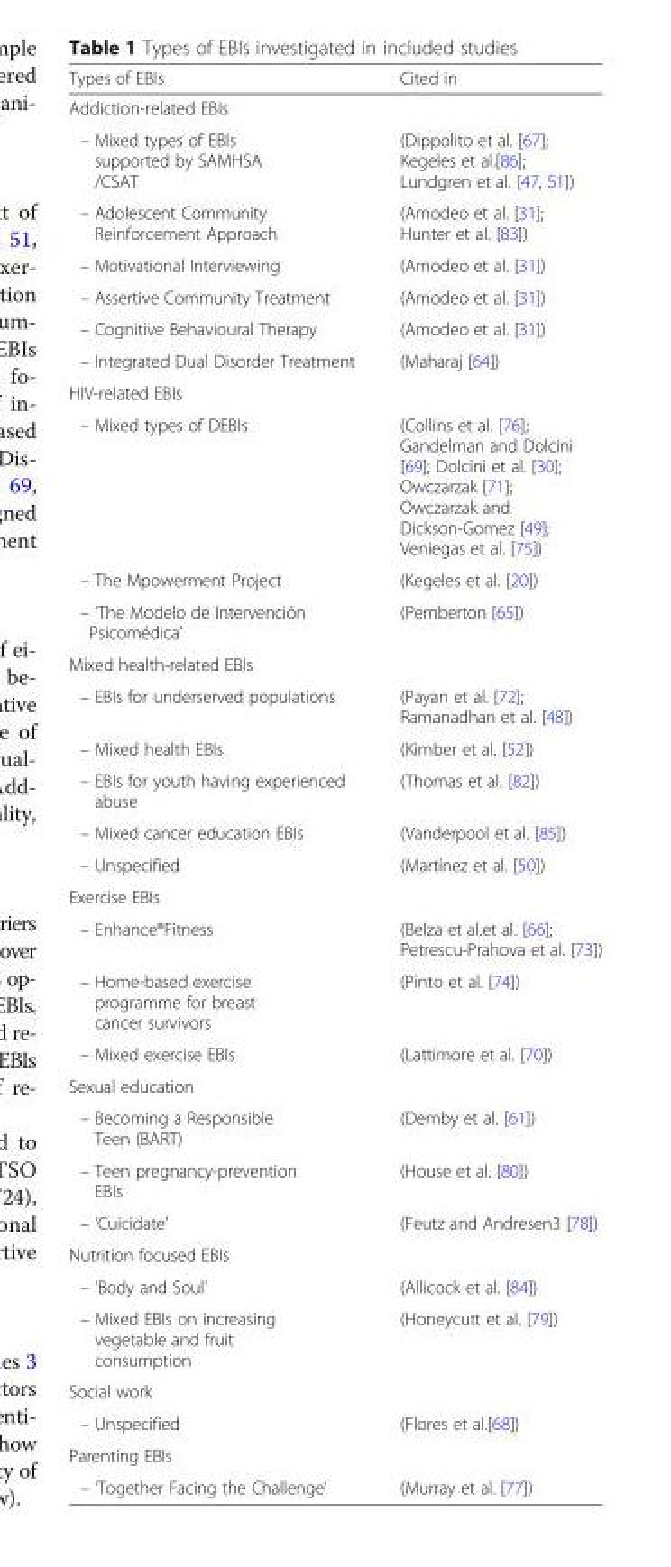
<table><thead><tr><td>Types of EBIs</td><td>Cited in</td></tr></thead><tbody><tr><td colspan="2">Addiction-related EBIs</td></tr><tr><td>– Mixed types of EBIs supported by SAMHSA /CSAT</td><td>(Dippolito et al. [67]; Kegeles et al.[86]; Lundgren et al. [47, 51])</td></tr><tr><td>– Adolescent Community Reinforcement Approach</td><td>(Amodeo et al. [31]; Hunter et al. [83])</td></tr><tr><td>– Motivational Interviewing</td><td>(Amodeo et al. [31])</td></tr><tr><td>– Assertive Community Treatment</td><td>(Amodeo et al. [31])</td></tr><tr><td>– Cognitive Behavioural Therapy</td><td>(Amodeo et al. [31])</td></tr><tr><td>– Integrated Dual Disorder Treatment</td><td>(Maharaj [64])</td></tr><tr><td colspan="2">HIV-related EBIs</td></tr><tr><td>– Mixed types of DEBIs</td><td>(Collins et al. [76]; Gandelman and Dolcini [69]; Dolcini et al. [30]; Owczarzak [71]; Owczarzak and Dickson-Gomez [49]; Veniegas et al. [75])</td></tr><tr><td>– The Mpowerment Project</td><td>(Kegeles et al. [20])</td></tr><tr><td>– ‘The Modelo de Intervención Psicomédica’</td><td>(Pemberton [65])</td></tr><tr><td colspan="2">Mixed health-related EBIs</td></tr><tr><td>– EBIs for underserved populations</td><td>(Payan et al. [72]; Ramanadhan et al. [48])</td></tr><tr><td>– Mixed health EBIs</td><td>(Kimber et al. [52])</td></tr><tr><td>– EBIs for youth having experienced abuse</td><td>(Thomas et al. [82])</td></tr><tr><td>– Mixed cancer education EBIs</td><td>(Vanderpool et al. [85])</td></tr><tr><td>– Unspecified</td><td>(Martínez et al. [50])</td></tr><tr><td colspan="2">Exercise EBIs</td></tr><tr><td>– Enhance®Fitness</td><td>(Belza et al.et al. [66]; Petrescu-Prahova et al. [73])</td></tr><tr><td>– Home-based exercise programme for breast cancer survivors</td><td>(Pinto et al. [74])</td></tr><tr><td>– Mixed exercise EBIs</td><td>(Lattimore et al. [70])</td></tr><tr><td colspan="2">Sexual education</td></tr><tr><td>– Becoming a Responsible Teen (BART)</td><td>(Demby et al. [61])</td></tr><tr><td>– Teen pregnancy-prevention EBIs</td><td>(House et al. [80])</td></tr><tr><td>– ‘Cuicidate’</td><td>(Feutz and Andresen3 [78])</td></tr><tr><td colspan="2">Nutrition focused EBIs</td></tr><tr><td>– ‘Body and Soul’</td><td>(Allicock et al. [84])</td></tr><tr><td>– Mixed EBIs on increasing vegetable and fruit consumption</td><td>(Honeycutt et al. [79])</td></tr><tr><td colspan="2">Social work</td></tr><tr><td>– Unspecified</td><td>(Flores et al.[68])</td></tr><tr><td colspan="2">Parenting EBIs</td></tr><tr><td>– ‘Together Facing the Challenge’</td><td>(Murray et al. [77])</td></tr></tbody></table>